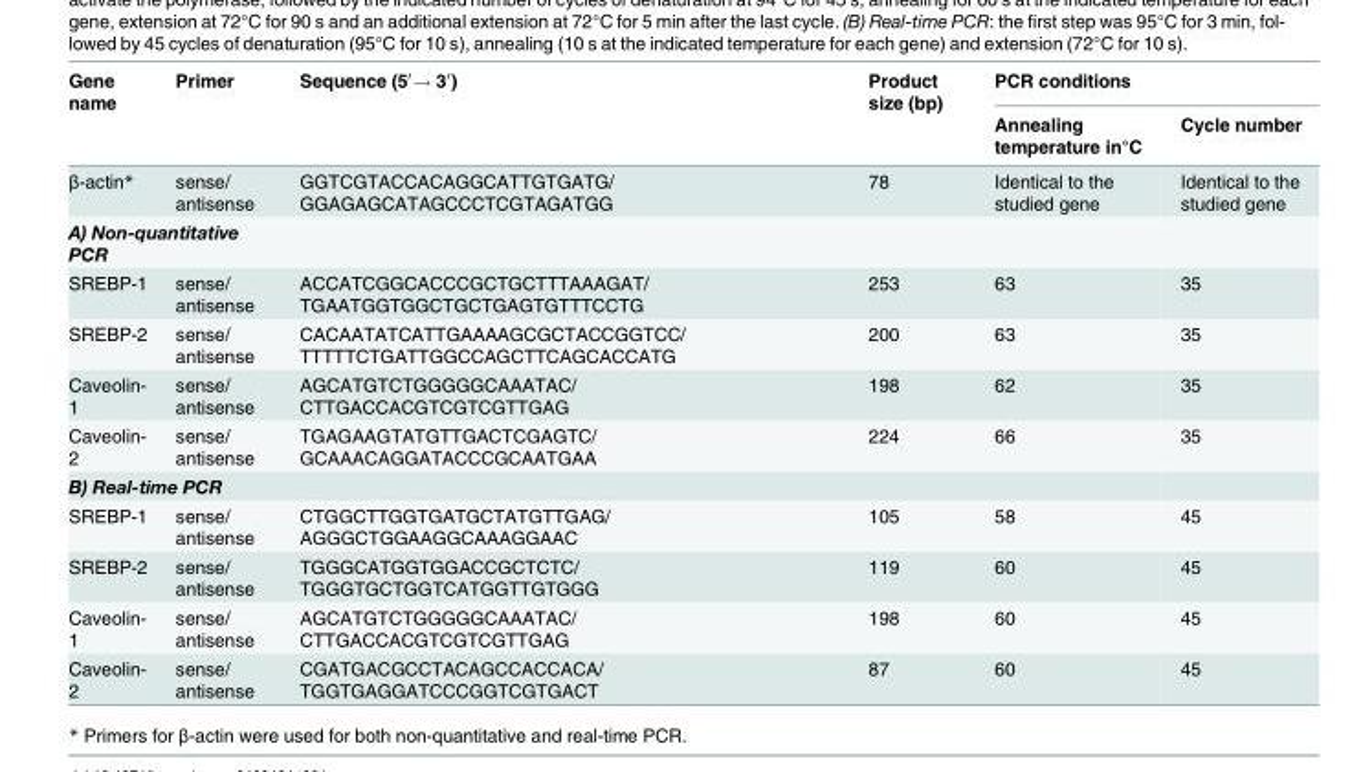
<table><thead><tr><td rowspan="2">Gene name</td><td rowspan="2">Primer</td><td rowspan="2">Sequence (5′→ 3′)</td><td rowspan="2">Product size (bp)</td><td colspan="2">PCR conditions</td></tr><tr><td>Annealing temperature in°C</td><td>Cycle number</td></tr></thead><tbody><tr><td>β-actin*</td><td>sense/ antisense</td><td>GGTCGTACCACAGGCATTGTGATG/ GGAGAGCATAGCCCTCGTAGATGG</td><td>78</td><td>Identical to the studied gene</td><td>Identical to the studied gene</td></tr><tr><td colspan="6">A) Non-quantitative PCR</td></tr><tr><td>SREBP-1</td><td>sense/ antisense</td><td>ACCATCGGCACCCGCTGCTTTAAAGAT/ TGAATGGTGGCTGCTGAGTGTTTCCTG</td><td>253</td><td>63</td><td>35</td></tr><tr><td>SREBP-2</td><td>sense/ antisense</td><td>CACAATATCATTGAAAAGCGCTACCGGTCC/ TTTTTCTGATTGGCCAGCTTCAGCACCATG</td><td>200</td><td>63</td><td>35</td></tr><tr><td>Caveolin- 1</td><td>sense/ antisense</td><td>AGCATGTCTGGGGGCAAATAC/ CTTGACCACGTCGTCGTTGAG</td><td>198</td><td>62</td><td>35</td></tr><tr><td>Caveolin- 2</td><td>sense/ antisense</td><td>TGAGAAGTATGTTGACTCGAGTC/ GCAAACAGGATACCCGCAATGAA</td><td>224</td><td>66</td><td>35</td></tr><tr><td colspan="6">B) Real-time PCR</td></tr><tr><td>SREBP-1</td><td>sense/ antisense</td><td>CTGGCTTGGTGATGCTATGTTGAG/ AGGGCTGGAAGGCAAAGGAAC</td><td>105</td><td>58</td><td>45</td></tr><tr><td>SREBP-2</td><td>sense/ antisense</td><td>TGGGCATGGTGGACCGCTCTC/ TGGGTGCTGGTCATGGTTGTGGG</td><td>119</td><td>60</td><td>45</td></tr><tr><td>Caveolin- 1</td><td>sense/ antisense</td><td>AGCATGTCTGGGGGCAAATAC/ CTTGACCACGTCGTCGTTGAG</td><td>198</td><td>60</td><td>45</td></tr><tr><td>Caveolin- 2</td><td>sense/ antisense</td><td>CGATGACGCCTACAGCCACCACA/ TGGTGAGGATCCCGGTCGTGACT</td><td>87</td><td>60</td><td>45</td></tr></tbody></table>